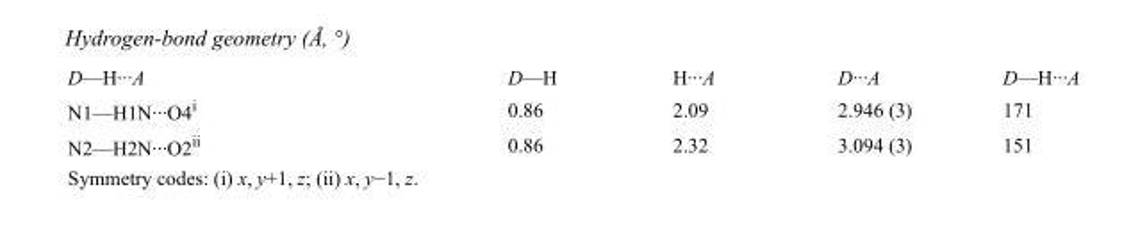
<table><tbody><tr><td>D—H···A</td><td>D—H</td><td>H···A</td><td>D···A</td><td>D—H···A</td></tr><tr><td>N1—H1N···O4<sup>i</sup></td><td>0.86</td><td>2.09</td><td>2.946 (3)</td><td>171</td></tr><tr><td>N2—H2N···O2<sup>ii</sup></td><td>0.86</td><td>2.32</td><td>3.094 (3)</td><td>151</td></tr></tbody></table>